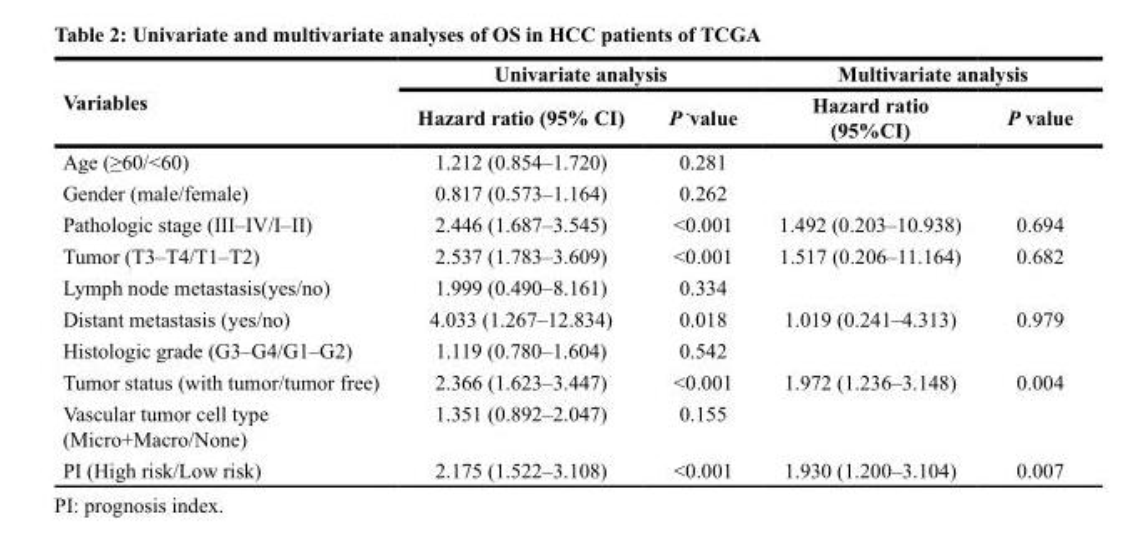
<table><thead><tr><td rowspan="2">Variables</td><td colspan="2">Univariate analysis</td><td colspan="2">Multivariate analysis</td></tr><tr><td>Hazard ratio (95% CI)</td><td>P value</td><td>Hazard ratio (95%CI)</td><td>P value</td></tr></thead><tbody><tr><td>Age (≥60/&lt;60)</td><td>1.212 (0.854–1.720)</td><td>0.281</td><td></td><td></td></tr><tr><td>Gender (male/female)</td><td>0.817 (0.573–1.164)</td><td>0.262</td><td></td><td></td></tr><tr><td>Pathologic stage (III–IV/I–II)</td><td>2.446 (1.687–3.545)</td><td>&lt;0.001</td><td>1.492 (0.203–10.938)</td><td>0.694</td></tr><tr><td>Tumor (T3–T4/T1–T2)</td><td>2.537 (1.783–3.609)</td><td>&lt;0.001</td><td>1.517 (0.206–11.164)</td><td>0.682</td></tr><tr><td>Lymph node metastasis(yes/no)</td><td>1.999 (0.490–8.161)</td><td>0.334</td><td></td><td></td></tr><tr><td>Distant metastasis (yes/no)</td><td>4.033 (1.267–12.834)</td><td>0.018</td><td>1.019 (0.241–4.313)</td><td>0.979</td></tr><tr><td>Histologic grade (G3–G4/G1–G2)</td><td>1.119 (0.780–1.604)</td><td>0.542</td><td></td><td></td></tr><tr><td>Tumor status (with tumor/tumor free)</td><td>2.366 (1.623–3.447)</td><td>&lt;0.001</td><td>1.972 (1.236–3.148)</td><td>0.004</td></tr><tr><td>Vascular tumor cell type (Micro+Macro/None)</td><td>1.351 (0.892–2.047)</td><td>0.155</td><td></td><td></td></tr><tr><td>PI (High risk/Low risk)</td><td>2.175 (1.522–3.108)</td><td>&lt;0.001</td><td>1.930 (1.200–3.104)</td><td>0.007</td></tr></tbody></table>